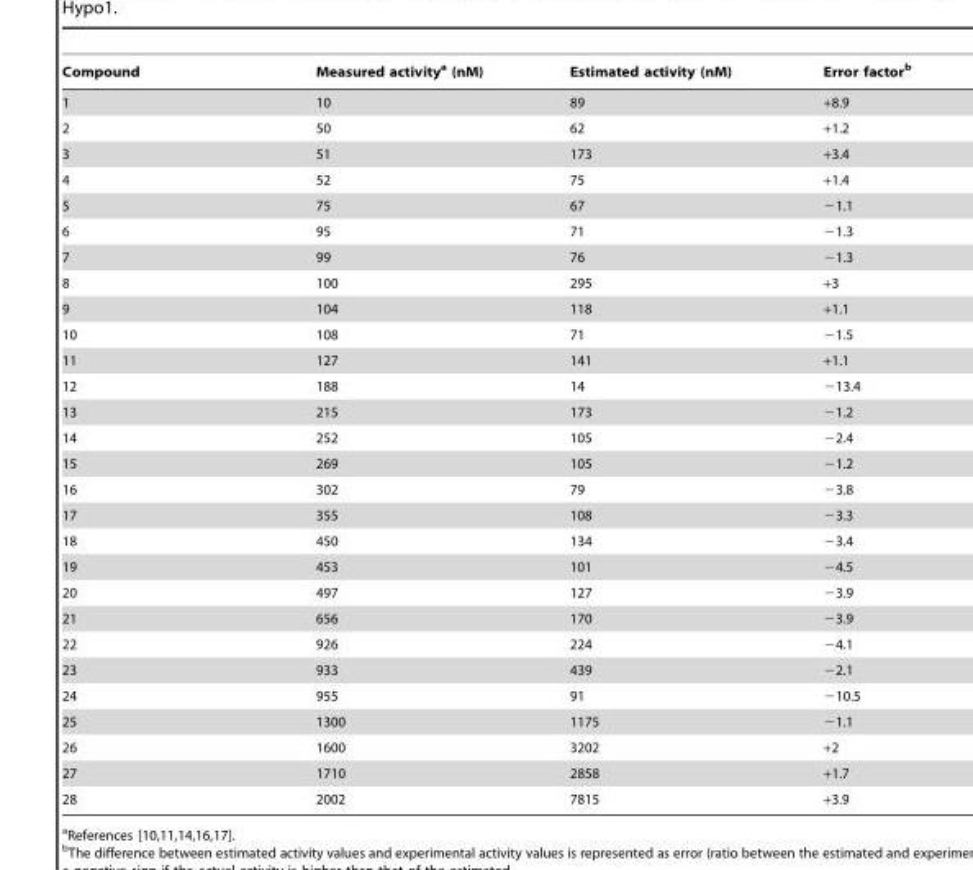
<table><thead><tr><td>Compound</td><td>Measured activity<sup>a</sup> (nM)</td><td>Estimated activity (nM)</td><td>Error factor<sup>b</sup></td></tr></thead><tbody><tr><td>1</td><td>10</td><td>89</td><td>+8.9</td></tr><tr><td>2</td><td>50</td><td>62</td><td>+1.2</td></tr><tr><td>3</td><td>51</td><td>173</td><td>+3.4</td></tr><tr><td>4</td><td>52</td><td>75</td><td>+1.4</td></tr><tr><td>5</td><td>75</td><td>67</td><td>−1.1</td></tr><tr><td>6</td><td>95</td><td>71</td><td>−1.3</td></tr><tr><td>7</td><td>99</td><td>76</td><td>−1.3</td></tr><tr><td>8</td><td>100</td><td>295</td><td>+3</td></tr><tr><td>9</td><td>104</td><td>118</td><td>+1.1</td></tr><tr><td>10</td><td>108</td><td>71</td><td>−1.5</td></tr><tr><td>11</td><td>127</td><td>141</td><td>+1.1</td></tr><tr><td>12</td><td>188</td><td>14</td><td>−13.4</td></tr><tr><td>13</td><td>215</td><td>173</td><td>−1.2</td></tr><tr><td>14</td><td>252</td><td>105</td><td>−2.4</td></tr><tr><td>15</td><td>269</td><td>105</td><td>−1.2</td></tr><tr><td>16</td><td>302</td><td>79</td><td>−3.8</td></tr><tr><td>17</td><td>355</td><td>108</td><td>−3.3</td></tr><tr><td>18</td><td>450</td><td>134</td><td>−3.4</td></tr><tr><td>19</td><td>453</td><td>101</td><td>−4.5</td></tr><tr><td>20</td><td>497</td><td>127</td><td>−3.9</td></tr><tr><td>21</td><td>656</td><td>170</td><td>−3.9</td></tr><tr><td>22</td><td>926</td><td>224</td><td>−4.1</td></tr><tr><td>23</td><td>933</td><td>439</td><td>−2.1</td></tr><tr><td>24</td><td>955</td><td>91</td><td>−10.5</td></tr><tr><td>25</td><td>1300</td><td>1175</td><td>−1.1</td></tr><tr><td>26</td><td>1600</td><td>3202</td><td>+2</td></tr><tr><td>27</td><td>1710</td><td>2858</td><td>+1.7</td></tr><tr><td>28</td><td>2002</td><td>7815</td><td>+3.9</td></tr></tbody></table>